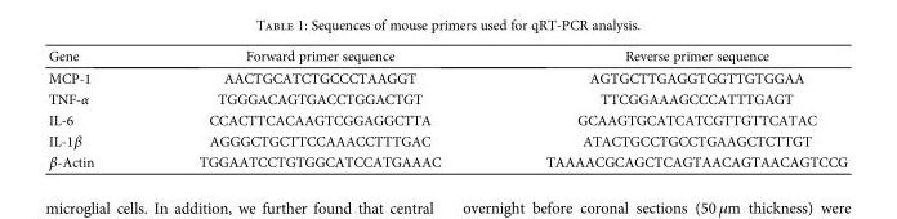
<table><thead><tr><td>Gene</td><td>Forward primer sequence</td><td>Reverse primer sequence</td></tr></thead><tbody><tr><td>MCP-1</td><td>AACTGCATCTGCCCTAAGGT</td><td>AGTGCTTGAGGTGGTTGTGGAA</td></tr><tr><td>TNF-α</td><td>TGGGACAGTGACCTGGACTGT</td><td>TTCGGAAAGCCCATTTGAGT</td></tr><tr><td>IL-6</td><td>CCACTTCACAAGTCGGAGGCTTA</td><td>GCAAGTGCATCATCGTTGTTCATAC</td></tr><tr><td>IL-1β</td><td>AGGGCTGCTTCCAAACCTTTGAC</td><td>ATACTGCCTGCCTGAAGCTCTTGT</td></tr><tr><td>β-Actin</td><td>TGGAATCCTGTGGCATCCATGAAAC</td><td>TAAAACGCAGCTCAGTAACAGTAACAGTCCG</td></tr></tbody></table>